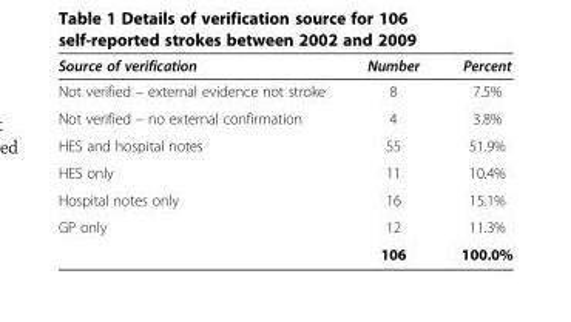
<table><thead><tr><td>Source of verification</td><td>Number</td><td>Percent</td></tr></thead><tbody><tr><td>Not verified – external evidence not stroke</td><td>8</td><td>7.5%</td></tr><tr><td>Not verified – no external confirmation</td><td>4</td><td>3.8%</td></tr><tr><td>HES and hospital notes</td><td>55</td><td>51.9%</td></tr><tr><td>HES only</td><td>11</td><td>10.4%</td></tr><tr><td>Hospital notes only</td><td>16</td><td>15.1%</td></tr><tr><td rowspan="2">GP only</td><td>12</td><td>11.3%</td></tr><tr><td>106</td><td>100.0%</td></tr></tbody></table>